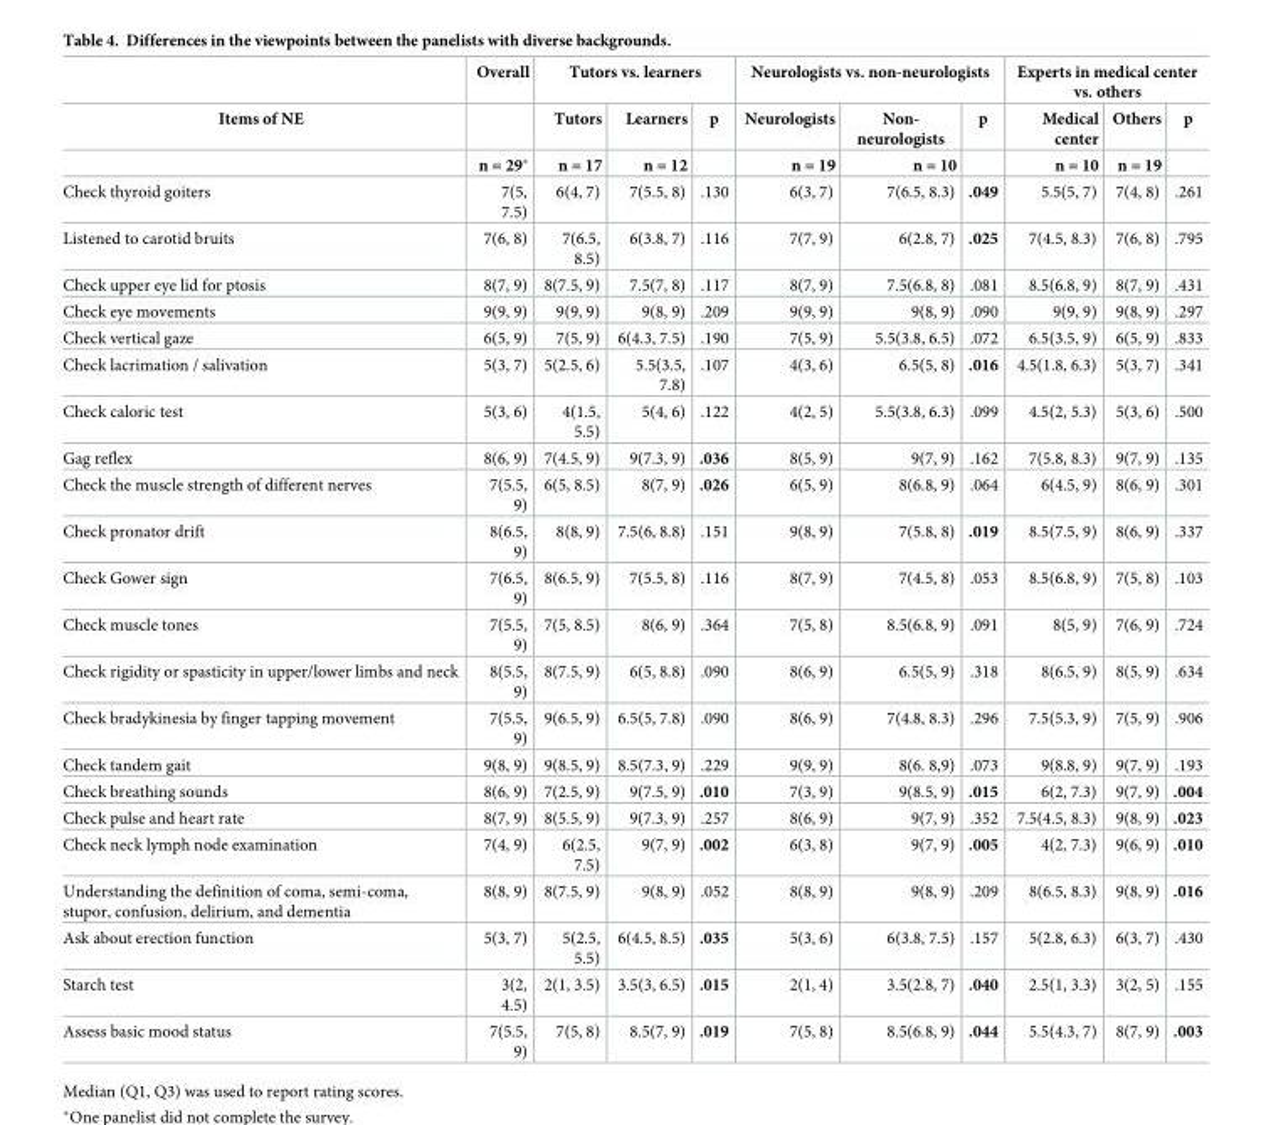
<table><thead><tr><td rowspan="3">Items of NE</td><td rowspan="3">Overall n = 29*</td><td colspan="3">Tutors vs. learners</td><td colspan="3">Neurologists vs. non-neurologists</td><td colspan="3">Experts in medical center vs. others</td></tr><tr><td rowspan="2">Tutors n = 17</td><td rowspan="2">Learners n = 12</td><td rowspan="2">p</td><td rowspan="2">Neurologists n = 19</td><td rowspan="2">Non- neurologists n = 10</td><td rowspan="2">p</td><td rowspan="2">Medical center n = 10</td><td rowspan="2">Others n = 19</td><td rowspan="2">p</td></tr><tr></tr></thead><tbody><tr><td>Check thyroid goiters</td><td>7(5, 7.5)</td><td>6(4, 7)</td><td>7(5.5, 8)</td><td>.130</td><td>6(3, 7)</td><td>7(6.5, 8.3)</td><td>.049</td><td>5.5(5, 7)</td><td>7(4, 8)</td><td>.261</td></tr><tr><td>Listened to carotid bruits</td><td>7(6, 8)</td><td>7(6.5, 8.5)</td><td>6(3.8, 7)</td><td>.116</td><td>7(7, 9)</td><td>6(2.8, 7)</td><td>.025</td><td>7(4.5, 8.3)</td><td>7(6, 8)</td><td>.795</td></tr><tr><td>Check upper eye lid for ptosis</td><td>8(7, 9)</td><td>8(7.5, 9)</td><td>7.5(7, 8)</td><td>.117</td><td>8(7, 9)</td><td>7.5(6.8, 8)</td><td>.081</td><td>8.5(6.8, 9)</td><td>8(7, 9)</td><td>.431</td></tr><tr><td>Check eye movements</td><td>9(9, 9)</td><td>9(9, 9)</td><td>9(8, 9)</td><td>.209</td><td>9(9, 9)</td><td>9(8, 9)</td><td>.090</td><td>9(9, 9)</td><td>9(8, 9)</td><td>.297</td></tr><tr><td>Check vertical gaze</td><td>6(5, 9)</td><td>7(5, 9)</td><td>6(4.3, 7.5)</td><td>.190</td><td>7(5, 9)</td><td>5.5(3.8, 6.5)</td><td>.072</td><td>6.5(3.5, 9)</td><td>6(5, 9)</td><td>.833</td></tr><tr><td>Check lacrimation / salivation</td><td>5(3, 7)</td><td>5(2.5, 6)</td><td>5.5(3.5, 7.8)</td><td>.107</td><td>4(3, 6)</td><td>6.5(5, 8)</td><td>.016</td><td>4.5(1.8, 6.3)</td><td>5(3, 7)</td><td>.341</td></tr><tr><td>Check caloric test</td><td>5(3, 6)</td><td>4(1.5, 5.5)</td><td>5(4, 6)</td><td>.122</td><td>4(2, 5)</td><td>5.5(3.8, 6.3)</td><td>.099</td><td>4.5(2, 5.3)</td><td>5(3, 6)</td><td>.500</td></tr><tr><td>Gag reflex</td><td>8(6, 9)</td><td>7(4.5, 9)</td><td>9(7.3, 9)</td><td>.036</td><td>8(5, 9)</td><td>9(7, 9)</td><td>.162</td><td>7(5.8, 8.3)</td><td>9(7, 9)</td><td>.135</td></tr><tr><td>Check the muscle strength of different nerves</td><td>7(5.5, 9)</td><td>6(5, 8.5)</td><td>8(7, 9)</td><td>.026</td><td>6(5, 9)</td><td>8(6.8, 9)</td><td>.064</td><td>6(4.5, 9)</td><td>8(6, 9)</td><td>.301</td></tr><tr><td>Check pronator drift</td><td>8(6.5, 9)</td><td>8(8, 9)</td><td>7.5(6, 8.8)</td><td>.151</td><td>9(8, 9)</td><td>7(5.8, 8)</td><td>.019</td><td>8.5(7.5, 9)</td><td>8(6, 9)</td><td>.337</td></tr><tr><td>Check Gower sign</td><td>7(6.5, 9)</td><td>8(6.5, 9)</td><td>7(5.5, 8)</td><td>.116</td><td>8(7, 9)</td><td>7(4.5, 8)</td><td>.053</td><td>8.5(6.8, 9)</td><td>7(5, 8)</td><td>.103</td></tr><tr><td>Check muscle tones</td><td>7(5.5, 9)</td><td>7(5, 8.5)</td><td>8(6, 9)</td><td>.364</td><td>7(5, 8)</td><td>8.5(6.8, 9)</td><td>.091</td><td>8(5, 9)</td><td>7(6, 9)</td><td>.724</td></tr><tr><td>Check rigidity or spasticity in upper/lower limbs and neck</td><td>8(5.5, 9)</td><td>8(7.5, 9)</td><td>6(5, 8.8)</td><td>.090</td><td>8(6, 9)</td><td>6.5(5, 9)</td><td>.318</td><td>8(6.5, 9)</td><td>8(5, 9)</td><td>.634</td></tr><tr><td>Check bradykinesia by finger tapping movement</td><td>7(5.5, 9)</td><td>9(6.5, 9)</td><td>6.5(5, 7.8)</td><td>.090</td><td>8(6, 9)</td><td>7(4.8, 8.3)</td><td>.296</td><td>7.5(5.3, 9)</td><td>7(5, 9)</td><td>.906</td></tr><tr><td>Check tandem gait</td><td>9(8, 9)</td><td>9(8.5, 9)</td><td>8.5(7.3, 9)</td><td>.229</td><td>9(9, 9)</td><td>8(6. 8,9)</td><td>.073</td><td>9(8.8, 9)</td><td>9(7, 9)</td><td>.193</td></tr><tr><td>Check breathing sounds</td><td>8(6, 9)</td><td>7(2.5, 9)</td><td>9(7.5, 9)</td><td>.010</td><td>7(3, 9)</td><td>9(8.5, 9)</td><td>.015</td><td>6(2, 7.3)</td><td>9(7, 9)</td><td>.004</td></tr><tr><td>Check pulse and heart rate</td><td>8(7, 9)</td><td>8(5.5, 9)</td><td>9(7.3, 9)</td><td>.257</td><td>8(6, 9)</td><td>9(7, 9)</td><td>.352</td><td>7.5(4.5, 8.3)</td><td>9(8, 9)</td><td>.023</td></tr><tr><td>Check neck lymph node examination</td><td>7(4, 9)</td><td>6(2.5, 7.5)</td><td>9(7, 9)</td><td>.002</td><td>6(3, 8)</td><td>9(7, 9)</td><td>.005</td><td>4(2, 7.3)</td><td>9(6, 9)</td><td>.010</td></tr><tr><td>Understanding the definition of coma, semi-coma, stupor, confusion, delirium, and dementia</td><td>8(8, 9)</td><td>8(7.5, 9)</td><td>9(8, 9)</td><td>.052</td><td>8(8, 9)</td><td>9(8, 9)</td><td>.209</td><td>8(6.5, 8.3)</td><td>9(8, 9)</td><td>.016</td></tr><tr><td>Ask about erection function</td><td>5(3, 7)</td><td>5(2.5, 5.5)</td><td>6(4.5, 8.5)</td><td>.035</td><td>5(3, 6)</td><td>6(3.8, 7.5)</td><td>.157</td><td>5(2.8, 6.3)</td><td>6(3, 7)</td><td>.430</td></tr><tr><td>Starch test</td><td>3(2, 4.5)</td><td>2(1, 3.5)</td><td>3.5(3, 6.5)</td><td>.015</td><td>2(1, 4)</td><td>3.5(2.8, 7)</td><td>.040</td><td>2.5(1, 3.3)</td><td>3(2, 5)</td><td>.155</td></tr><tr><td>Assess basic mood status</td><td>7(5.5, 9)</td><td>7(5, 8)</td><td>8.5(7, 9)</td><td>.019</td><td>7(5, 8)</td><td>8.5(6.8, 9)</td><td>.044</td><td>5.5(4.3, 7)</td><td>8(7, 9)</td><td>.003</td></tr></tbody></table>